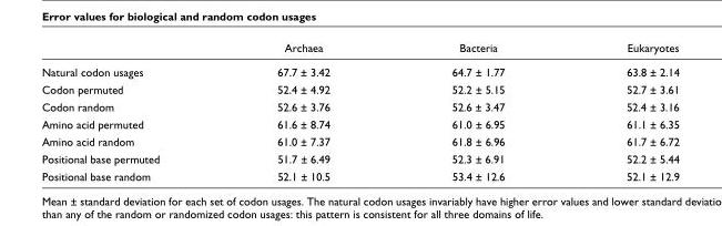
<table><thead><tr><td></td><td>Archaea</td><td>Bacteria</td><td>Eukaryotes</td></tr></thead><tbody><tr><td>Natural codon usages</td><td>67.7 ± 3.42</td><td>64.7 ± 1.77</td><td>63.8 ± 2.14</td></tr><tr><td>Codon permuted</td><td>52.4 ± 4.92</td><td>52.2 ± 5.15</td><td>52.7 ± 3.61</td></tr><tr><td>Codon random</td><td>52.6 ± 3.76</td><td>52.6 ± 3.47</td><td>52.4 ± 3.16</td></tr><tr><td>Amino acid permuted</td><td>61.6 ± 8.74</td><td>61.0 ± 6.95</td><td>61.1 ± 6.35</td></tr><tr><td>Amino acid random</td><td>61.0 ± 7.37</td><td>61.8 ± 6.96</td><td>61.7 ± 6.72</td></tr><tr><td>Positional base permuted</td><td>51.7 ± 6.49</td><td>52.3 ± 6.91</td><td>52.2 ± 5.44</td></tr><tr><td>Positional base random</td><td>52.1 ± 10.5</td><td>53.4 ± 12.6</td><td>52.1 ± 12.9</td></tr></tbody></table>